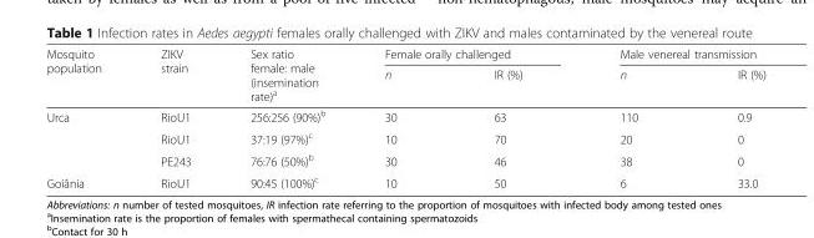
<table><thead><tr><td rowspan="2">Mosquito population</td><td rowspan="2">ZIKV strain</td><td rowspan="2">Sex ratio female: male (insemination rate)<sup>a</sup></td><td colspan="2">Female orally challenged</td><td colspan="2">Male venereal transmission</td></tr><tr><td>n</td><td>IR (%)</td><td>n</td><td>IR (%)</td></tr></thead><tbody><tr><td rowspan="3">Urca</td><td>RioU1</td><td>256:256 (90%)<sup>b</sup></td><td>30</td><td>63</td><td>110</td><td>0.9</td></tr><tr><td>RioU1</td><td>37:19 (97%)<sup>c</sup></td><td>10</td><td>70</td><td>20</td><td>0</td></tr><tr><td>PE243</td><td>76:76 (50%)<sup>b</sup></td><td>30</td><td>46</td><td>38</td><td>0</td></tr><tr><td>Goiânia</td><td>RioU1</td><td>90:45 (100%)<sup>c</sup></td><td>10</td><td>50</td><td>6</td><td>33.0</td></tr></tbody></table>